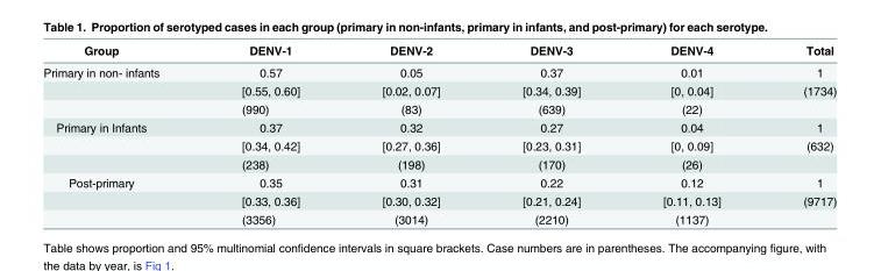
<table><thead><tr><td>Group</td><td>DENV-1</td><td>DENV-2</td><td>DENV-3</td><td>DENV-4</td><td>Total</td></tr></thead><tbody><tr><td rowspan="3">Primary in non- infants</td><td>0.57</td><td>0.05</td><td>0.37</td><td>0.01</td><td>1</td></tr><tr><td>[0.55, 0.60]</td><td>[0.02, 0.07]</td><td>[0.34, 0.39]</td><td>[0, 0.04]</td><td>(1734)</td></tr><tr><td>(990)</td><td>(83)</td><td>(639)</td><td>(22)</td><td></td></tr><tr><td rowspan="3">Primary in Infants</td><td>0.37</td><td>0.32</td><td>0.27</td><td>0.04</td><td>1</td></tr><tr><td>[0.34, 0.42]</td><td>[0.27, 0.36]</td><td>[0.23, 0.31]</td><td>[0, 0.09]</td><td>(632)</td></tr><tr><td>(238)</td><td>(198)</td><td>(170)</td><td>(26)</td><td></td></tr><tr><td rowspan="3">Post-primary</td><td>0.35</td><td>0.31</td><td>0.22</td><td>0.12</td><td>1</td></tr><tr><td>[0.33, 0.36]</td><td>[0.30, 0.32]</td><td>[0.21, 0.24]</td><td>[0.11, 0.13]</td><td>(9717)</td></tr><tr><td>(3356)</td><td>(3014)</td><td>(2210)</td><td>(1137)</td><td></td></tr></tbody></table>